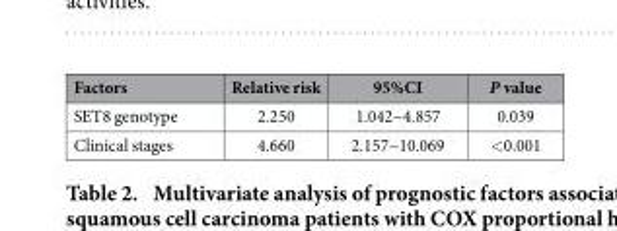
<table><thead><tr><td>Factors</td><td>Relative risk</td><td>95%CI</td><td>P value</td></tr></thead><tbody><tr><td>SET8 genotype</td><td>2.250</td><td>1.042~4.857</td><td>0.039</td></tr><tr><td>Clinical stages</td><td>4.660</td><td>2.157~10.069</td><td>&lt; 0.001</td></tr></tbody></table>